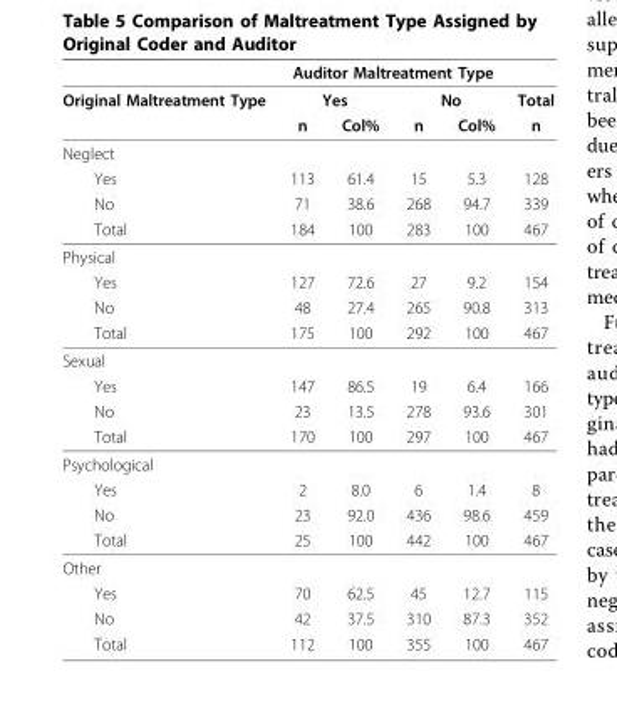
<table><thead><tr><td rowspan="3">Original Maltreatment Type</td><td colspan="4">Auditor Maltreatment Type</td><td rowspan="3">Total n</td></tr><tr><td colspan="2">Yes</td><td colspan="2">No</td></tr><tr><td>n</td><td>Col%</td><td>n</td><td>Col%</td></tr></thead><tbody><tr><td colspan="6">Neglect</td></tr><tr><td>Yes</td><td>113</td><td>61.4</td><td>15</td><td>5.3</td><td>128</td></tr><tr><td>No</td><td>71</td><td>38.6</td><td>268</td><td>94.7</td><td>339</td></tr><tr><td>Total</td><td>184</td><td>100</td><td>283</td><td>100</td><td>467</td></tr><tr><td colspan="6">Physical</td></tr><tr><td>Yes</td><td>127</td><td>72.6</td><td>27</td><td>9.2</td><td>154</td></tr><tr><td>No</td><td>48</td><td>27.4</td><td>265</td><td>90.8</td><td>313</td></tr><tr><td>Total</td><td>175</td><td>100</td><td>292</td><td>100</td><td>467</td></tr><tr><td colspan="6">Sexual</td></tr><tr><td>Yes</td><td>147</td><td>86.5</td><td>19</td><td>6.4</td><td>166</td></tr><tr><td>No</td><td>23</td><td>13.5</td><td>278</td><td>93.6</td><td>301</td></tr><tr><td>Total</td><td>170</td><td>100</td><td>297</td><td>100</td><td>467</td></tr><tr><td colspan="6">Psychological</td></tr><tr><td>Yes</td><td>2</td><td>8.0</td><td>6</td><td>1.4</td><td>8</td></tr><tr><td>No</td><td>23</td><td>92.0</td><td>436</td><td>98.6</td><td>459</td></tr><tr><td>Total</td><td>25</td><td>100</td><td>442</td><td>100</td><td>467</td></tr><tr><td colspan="6">Other</td></tr><tr><td>Yes</td><td>70</td><td>62.5</td><td>45</td><td>12.7</td><td>115</td></tr><tr><td>No</td><td>42</td><td>37.5</td><td>310</td><td>87.3</td><td>352</td></tr><tr><td>Total</td><td>112</td><td>100</td><td>355</td><td>100</td><td>467</td></tr></tbody></table>